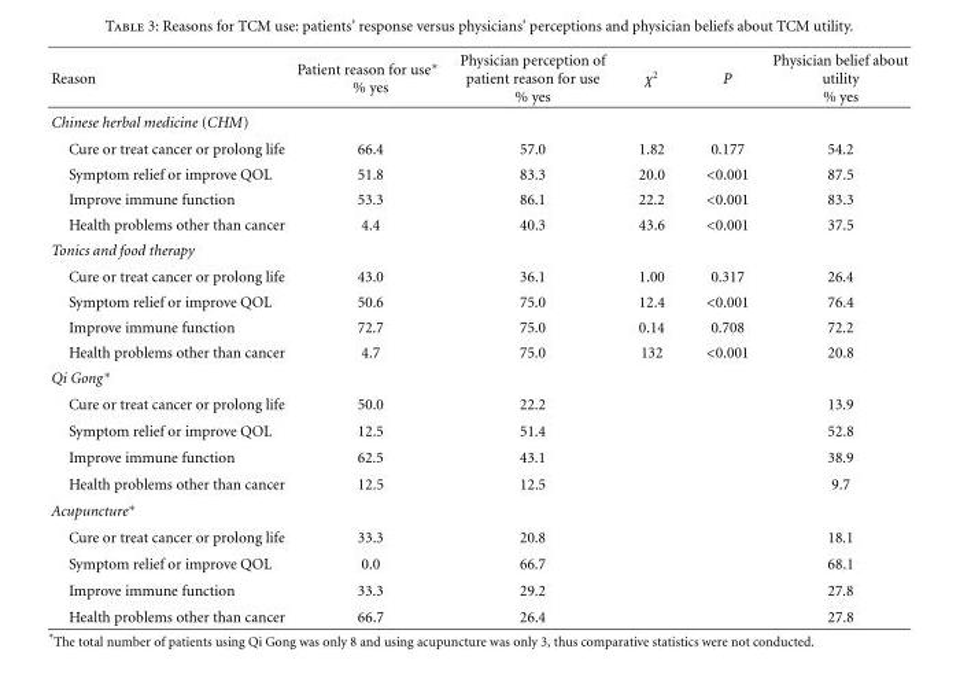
<table><thead><tr><td>Reason</td><td>Patient reason for use∗ % yes</td><td>Physician perception of patient reason for use % yes</td><td>χ<sup>2</sup></td><td>P</td><td>Physician belief about utility % yes</td></tr></thead><tbody><tr><td colspan="6">Chinese herbal medicine (CHM)</td></tr><tr><td>Cure or treat cancer or prolong life</td><td>66.4</td><td>57.0</td><td>1.82</td><td>0.177</td><td>54.2</td></tr><tr><td>Symptom relief or improve QOL</td><td>51.8</td><td>83.3</td><td>20.0</td><td>&lt;0.001</td><td>87.5</td></tr><tr><td>Improve immune function</td><td>53.3</td><td>86.1</td><td>22.2</td><td>&lt;0.001</td><td>83.3</td></tr><tr><td>Health problems other than cancer</td><td>4.4</td><td>40.3</td><td>43.6</td><td>&lt;0.001</td><td>37.5</td></tr><tr><td colspan="6">Tonics and food therapy</td></tr><tr><td>Cure or treat cancer or prolong life</td><td>43.0</td><td>36.1</td><td>1.00</td><td>0.317</td><td>26.4</td></tr><tr><td>Symptom relief or improve QOL</td><td>50.6</td><td>75.0</td><td>12.4</td><td>&lt;0.001</td><td>76.4</td></tr><tr><td>Improve immune function</td><td>72.7</td><td>75.0</td><td>0.14</td><td>0.708</td><td>72.2</td></tr><tr><td>Health problems other than cancer</td><td>4.7</td><td>75.0</td><td>132</td><td>&lt;0.001</td><td>20.8</td></tr><tr><td colspan="6">Qi Gong∗</td></tr><tr><td>Cure or treat cancer or prolong life</td><td>50.0</td><td>22.2</td><td></td><td></td><td>13.9</td></tr><tr><td>Symptom relief or improve QOL</td><td>12.5</td><td>51.4</td><td></td><td></td><td>52.8</td></tr><tr><td>Improve immune function</td><td>62.5</td><td>43.1</td><td></td><td></td><td>38.9</td></tr><tr><td>Health problems other than cancer</td><td>12.5</td><td>12.5</td><td></td><td></td><td>9.7</td></tr><tr><td colspan="6">Acupuncture∗</td></tr><tr><td>Cure or treat cancer or prolong life</td><td>33.3</td><td>20.8</td><td></td><td></td><td>18.1</td></tr><tr><td>Symptom relief or improve QOL</td><td>0.0</td><td>66.7</td><td></td><td></td><td>68.1</td></tr><tr><td>Improve immune function</td><td>33.3</td><td>29.2</td><td></td><td></td><td>27.8</td></tr><tr><td>Health problems other than cancer</td><td>66.7</td><td>26.4</td><td></td><td></td><td>27.8</td></tr></tbody></table>